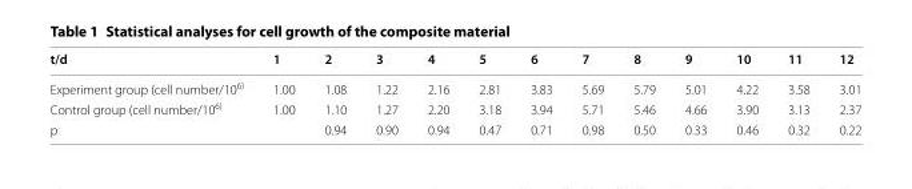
<table><thead><tr><td>t/d</td><td>1</td><td>2</td><td>3</td><td>4</td><td>5</td><td>6</td><td>7</td><td>8</td><td>9</td><td>10</td><td>11</td><td>12</td></tr></thead><tbody><tr><td>Experiment group (cell number/10<sup>6)</sup></td><td>1.00</td><td>1.08</td><td>1.22</td><td>2.16</td><td>2.81</td><td>3.83</td><td>5.69</td><td>5.79</td><td>5.01</td><td>4.22</td><td>3.58</td><td>3.01</td></tr><tr><td>Control group (cell number/10<sup>6)</sup></td><td>1.00</td><td>1.10</td><td>1.27</td><td>2.20</td><td>3.18</td><td>3.94</td><td>5.71</td><td>5.46</td><td>4.66</td><td>3.90</td><td>3.13</td><td>2.37</td></tr><tr><td>p</td><td></td><td>0.94</td><td>0.90</td><td>0.94</td><td>0.47</td><td>0.71</td><td>0.98</td><td>0.50</td><td>0.33</td><td>0.46</td><td>0.32</td><td>0.22</td></tr></tbody></table>